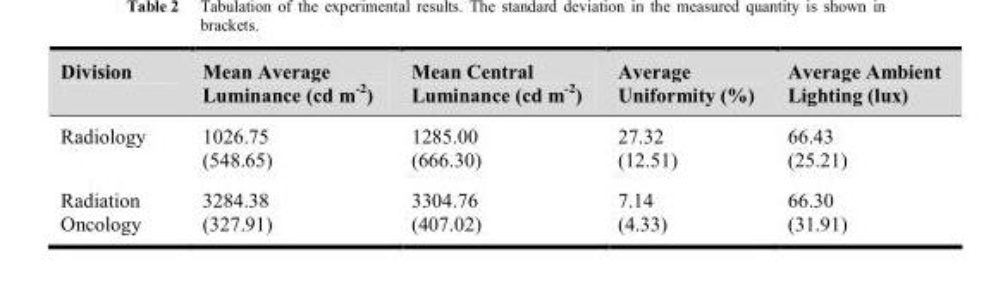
<table><thead><tr><td>Division</td><td>Mean Average Luminance (cd m-2)</td><td>Mean Central Luminance (cd m-2)</td><td>Average Uniformity (%)</td><td>Average Ambient Lighting (lux)</td></tr></thead><tbody><tr><td>Radiology</td><td>1026.75 (548.65)</td><td>1285.00 (666.30)</td><td>27.32 (12.51)</td><td>66.43 (25.21)</td></tr><tr><td>Radiation Oncology</td><td>3284.38 (327.91)</td><td>3304.76 (407.02)</td><td>7.14 (4.33)</td><td>66.30 (31.91)</td></tr></tbody></table>